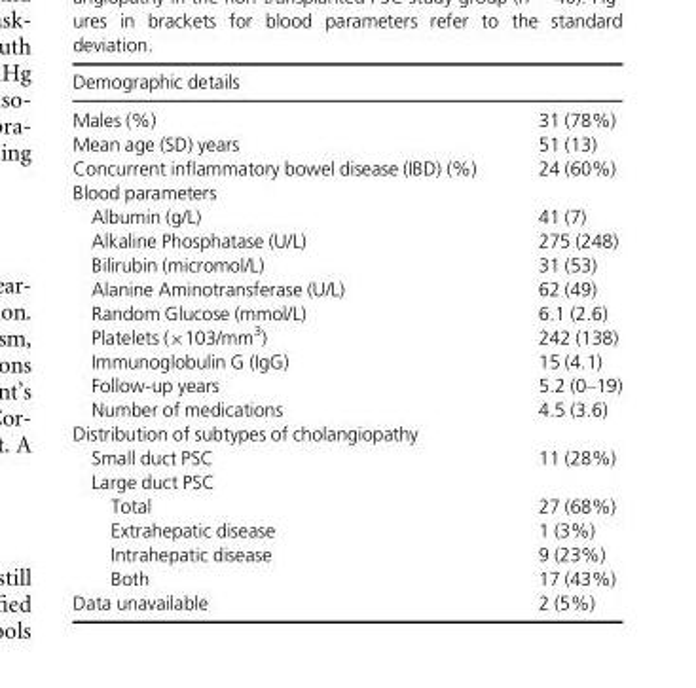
<table><thead><tr><td colspan="2">Demographic details</td></tr><tr><td>Males (%)</td><td>31 (78%)</td></tr></thead><tbody><tr><td>Mean age (SD) years</td><td>51 (13)</td></tr><tr><td>Concurrent inflammatory bowel disease (IBD) (%)</td><td>24 (60%)</td></tr><tr><td colspan="2">Blood parameters</td></tr><tr><td>Albumin (g/L)</td><td>41 (7)</td></tr><tr><td>Alkaline Phosphatase (U/L)</td><td>275 (248)</td></tr><tr><td>Bilirubin (micromol/L)</td><td>31 (53)</td></tr><tr><td>Alanine Aminotransferase (U/L)</td><td>62 (49)</td></tr><tr><td>Random Glucose (mmol/L)</td><td>6.1 (2.6)</td></tr><tr><td>Platelets (×103/mm<sup>3</sup>)</td><td>242 (138)</td></tr><tr><td>Immunoglobulin G (IgG)</td><td>15 (4.1)</td></tr><tr><td>Follow-up years</td><td>5.2 (0–19)</td></tr><tr><td>Number of medications</td><td>4.5 (3.6)</td></tr><tr><td colspan="2">Distribution of subtypes of cholangiopathy</td></tr><tr><td>Small duct PSC</td><td>11 (28%)</td></tr><tr><td colspan="2">Large duct PSC</td></tr><tr><td>Total</td><td>27 (68%)</td></tr><tr><td>Extrahepatic disease</td><td>1 (3%)</td></tr><tr><td>Intrahepatic disease</td><td>9 (23%)</td></tr><tr><td>Both</td><td>17 (43%)</td></tr><tr><td>Data unavailable</td><td>2 (5%)</td></tr></tbody></table>